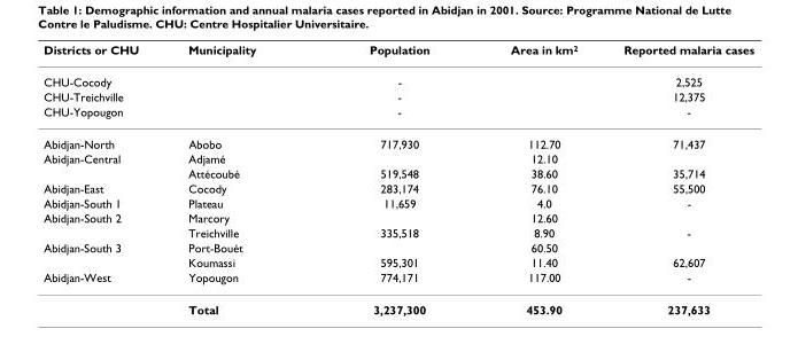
<table><thead><tr><td>Districts or CHU</td><td>Municipality</td><td>Population</td><td>Area in km<sup>2</sup></td><td>Reported malaria cases</td></tr></thead><tbody><tr><td>CHU-Cocody</td><td></td><td>-</td><td></td><td>2,525</td></tr><tr><td>CHU-Treichville</td><td></td><td>-</td><td></td><td>12,375</td></tr><tr><td>CHU-Yopougon</td><td></td><td>-</td><td></td><td>-</td></tr><tr><td>Abidjan-North</td><td>Abobo</td><td>717,930</td><td>112.70</td><td>71,437</td></tr><tr><td rowspan="2">Abidjan-Central</td><td>Adjamé</td><td></td><td>12.10</td><td></td></tr><tr><td>Attécoubé</td><td>519,548</td><td>38.60</td><td>35,714</td></tr><tr><td>Abidjan-East</td><td>Cocody</td><td>283,174</td><td>76.10</td><td>55,500</td></tr><tr><td>Abidjan-South 1</td><td>Plateau</td><td>11,659</td><td>4.0</td><td>-</td></tr><tr><td rowspan="2">Abidjan-South 2</td><td>Marcory</td><td></td><td>12.60</td><td></td></tr><tr><td>Treichville</td><td>335,518</td><td>8.90</td><td>-</td></tr><tr><td rowspan="2">Abidjan-South 3</td><td>Port-Bouét</td><td></td><td>60.50</td><td></td></tr><tr><td>Koumassi</td><td>595,301</td><td>11.40</td><td>62,607</td></tr><tr><td rowspan="2">Abidjan-West</td><td>Yopougon</td><td>774,171</td><td>117.00</td><td>-</td></tr><tr><td>Total</td><td>3,237,300</td><td>453.90</td><td>237,633</td></tr></tbody></table>